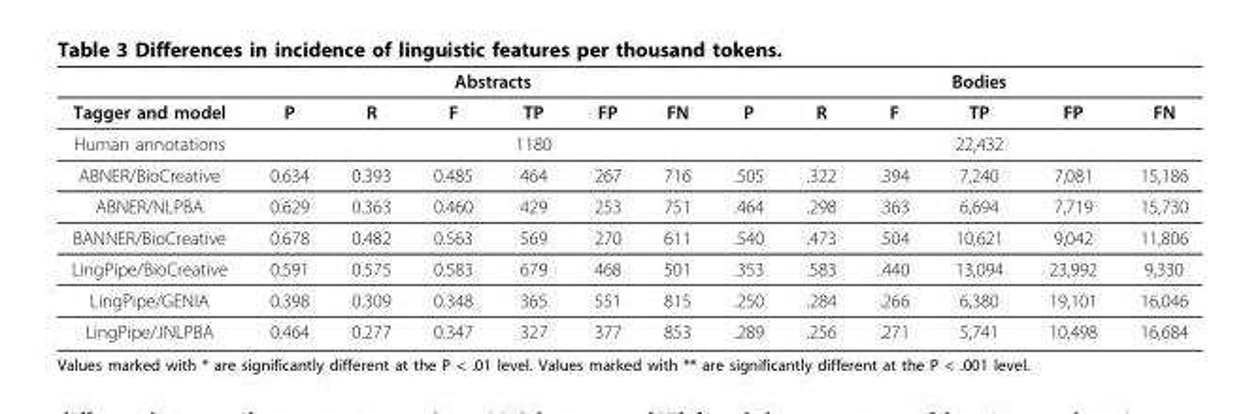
<table><thead><tr><td rowspan="2">Tagger and model</td><td rowspan="2">P</td><td rowspan="2">R</td><td colspan="2">Abstracts</td><td rowspan="2">FP</td><td rowspan="2">FN</td><td rowspan="2">P</td><td rowspan="2">R</td><td rowspan="2">F</td><td rowspan="2">Bodies TP</td><td rowspan="2">FP</td><td rowspan="2">FN</td></tr><tr><td>F</td><td>TP</td></tr></thead><tbody><tr><td>Human annotations</td><td></td><td></td><td></td><td>1180</td><td></td><td></td><td></td><td></td><td></td><td>22,432</td><td></td><td></td></tr><tr><td>ABNER/BioCreative</td><td>0.634</td><td>0.393</td><td>0.485</td><td>464</td><td>267</td><td>716</td><td>.505</td><td>.322</td><td>.394</td><td>7,240</td><td>7,081</td><td>15,186</td></tr><tr><td>ABNER/NLPBA</td><td>0.629</td><td>0.363</td><td>0.460</td><td>429</td><td>253</td><td>751</td><td>.464</td><td>.298</td><td>.363</td><td>6,694</td><td>7,719</td><td>15,730</td></tr><tr><td>BANNER/BioCreative</td><td>0.678</td><td>0.482</td><td>0.563</td><td>569</td><td>270</td><td>611</td><td>.540</td><td>.473</td><td>.504</td><td>10,621</td><td>9,042</td><td>11,806</td></tr><tr><td>LingPipe/BioCreative</td><td>0.591</td><td>0.575</td><td>0.583</td><td>679</td><td>468</td><td>501</td><td>.353</td><td>.583</td><td>.440</td><td>13,094</td><td>23,992</td><td>9,330</td></tr><tr><td>LingPipe/GENIA</td><td>0.398</td><td>0.309</td><td>0.348</td><td>365</td><td>551</td><td>815</td><td>.250</td><td>.284</td><td>.266</td><td>6,380</td><td>19,101</td><td>16,046</td></tr><tr><td>LingPipe/JNLPBA</td><td>0.464</td><td>0.277</td><td>0.347</td><td>327</td><td>377</td><td>853</td><td>.289</td><td>.256</td><td>.271</td><td>5,741</td><td>10,498</td><td>16,684</td></tr></tbody></table>